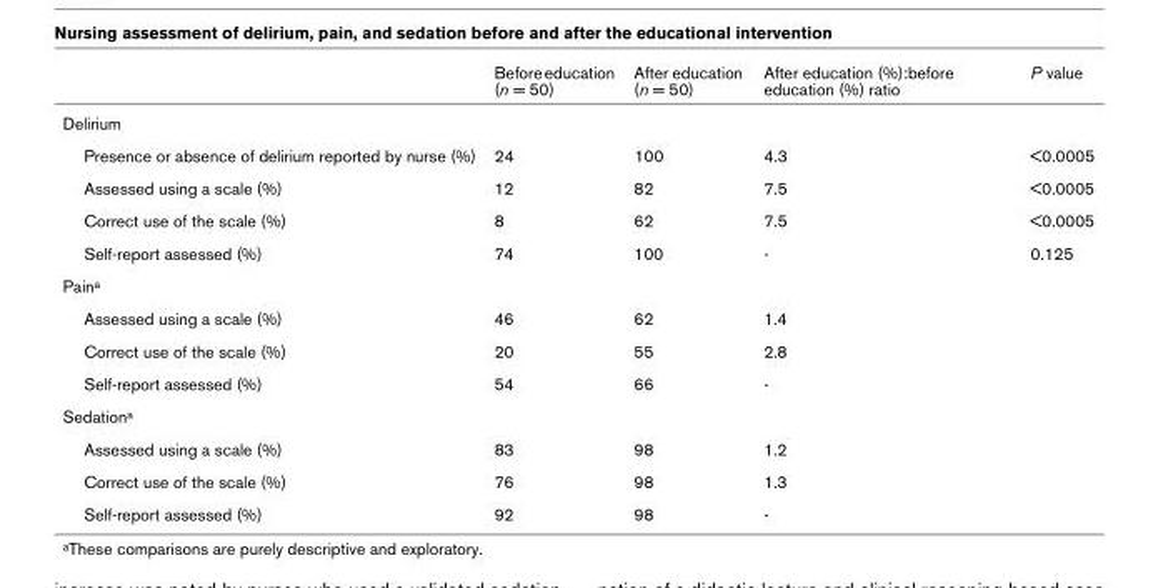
<table><thead><tr><td></td><td>Before education (n = 50)</td><td>After education (n = 50)</td><td>After education (%):before education (%) ratio</td><td>P value</td></tr></thead><tbody><tr><td colspan="5">Delirium</td></tr><tr><td>Presence or absence of delirium reported by nurse (%)</td><td>24</td><td>100</td><td>4.3</td><td>&lt;0.0005</td></tr><tr><td>Assessed using a scale (%)</td><td>12</td><td>82</td><td>7.5</td><td>&lt;0.0005</td></tr><tr><td>Correct use of the scale (%)</td><td>8</td><td>62</td><td>7.5</td><td>&lt;0.0005</td></tr><tr><td>Self-report assessed (%)</td><td>74</td><td>100</td><td>-</td><td>0.125</td></tr><tr><td colspan="5">Pain<sup>a</sup></td></tr><tr><td>Assessed using a scale (%)</td><td>46</td><td>62</td><td>1.4</td><td></td></tr><tr><td>Correct use of the scale (%)</td><td>20</td><td>55</td><td>2.8</td><td></td></tr><tr><td>Self-report assessed (%)</td><td>54</td><td>66</td><td>-</td><td></td></tr><tr><td colspan="5">Sedation<sup>a</sup></td></tr><tr><td>Assessed using a scale (%)</td><td>83</td><td>98</td><td>1.2</td><td></td></tr><tr><td>Correct use of the scale (%)</td><td>76</td><td>98</td><td>1.3</td><td></td></tr><tr><td>Self-report assessed (%)</td><td>92</td><td>98</td><td>-</td><td></td></tr></tbody></table>